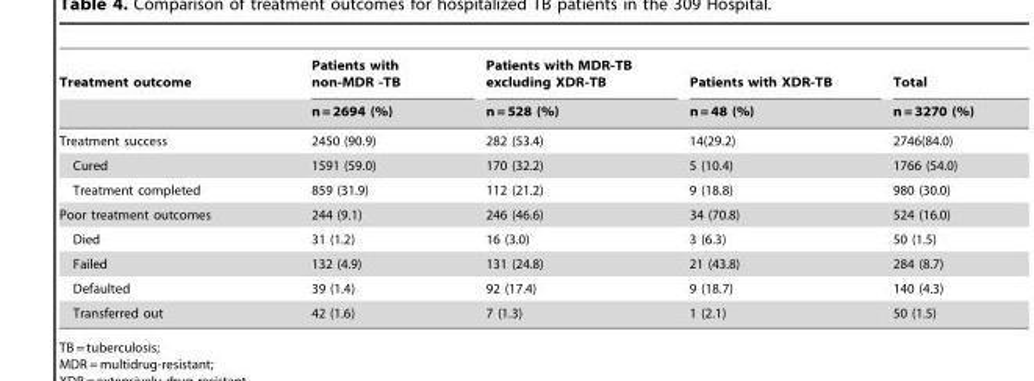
<table><thead><tr><td rowspan="2">Treatment outcome</td><td rowspan="2">Patients with non-MDR -TB n = 2694 (%)</td><td rowspan="2">Patients with MDR-TB excluding XDR-TB n = 528 (%)</td><td rowspan="2">Patients with XDR-TB n = 48 (%)</td><td rowspan="2">Total n = 3270 (%)</td></tr><tr></tr></thead><tbody><tr><td>Treatment success</td><td>2450 (90.9)</td><td>282 (53.4)</td><td>14(29.2)</td><td>2746(84.0)</td></tr><tr><td>Cured</td><td>1591 (59.0)</td><td>170 (32.2)</td><td>5 (10.4)</td><td>1766 (54.0)</td></tr><tr><td>Treatment completed</td><td>859 (31.9)</td><td>112 (21.2)</td><td>9 (18.8)</td><td>980 (30.0)</td></tr><tr><td>Poor treatment outcomes</td><td>244 (9.1)</td><td>246 (46.6)</td><td>34 (70.8)</td><td>524 (16.0)</td></tr><tr><td>Died</td><td>31 (1.2)</td><td>16 (3.0)</td><td>3 (6.3)</td><td>50 (1.5)</td></tr><tr><td>Failed</td><td>132 (4.9)</td><td>131 (24.8)</td><td>21 (43.8)</td><td>284 (8.7)</td></tr><tr><td>Defaulted</td><td>39 (1.4)</td><td>92 (17.4)</td><td>9 (18.7)</td><td>140 (4.3)</td></tr><tr><td>Transferred out</td><td>42 (1.6)</td><td>7 (1.3)</td><td>1 (2.1)</td><td>50 (1.5)</td></tr></tbody></table>